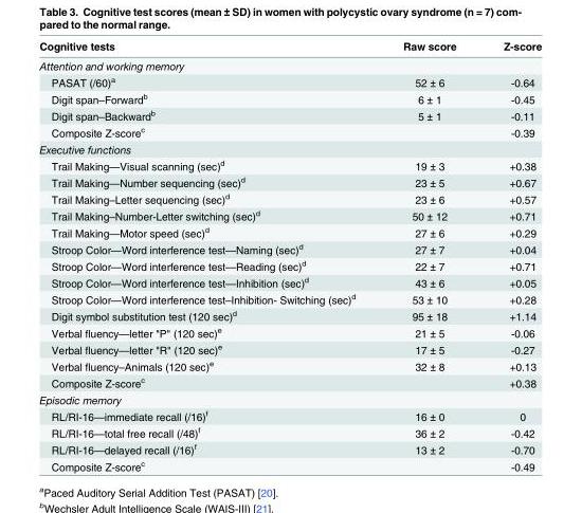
<table><thead><tr><td>Cognitive tests</td><td>Raw score</td><td>Z-score</td></tr></thead><tbody><tr><td colspan="3">Attention and working memory</td></tr><tr><td>PASAT (/60)<sup>a</sup></td><td>52 ± 6</td><td>-0.64</td></tr><tr><td>Digit span–Forward<sup>b</sup></td><td>6 ± 1</td><td>-0.45</td></tr><tr><td>Digit span–Backward<sup>b</sup></td><td>5 ± 1</td><td>-0.11</td></tr><tr><td>Composite Z-score<sup>c</sup></td><td></td><td>-0.39</td></tr><tr><td colspan="3">Executive functions</td></tr><tr><td>Trail Making—Visual scanning (sec)<sup>d</sup></td><td>19 ± 3</td><td>+0.38</td></tr><tr><td>Trail Making—Number sequencing (sec)<sup>d</sup></td><td>23 ± 5</td><td>+0.67</td></tr><tr><td>Trail Making–Letter sequencing (sec)<sup>d</sup></td><td>23 ± 6</td><td>+0.57</td></tr><tr><td>Trail Making–Number-Letter switching (sec)<sup>d</sup></td><td>50 ± 12</td><td>+0.71</td></tr><tr><td>Trail Making—Motor speed (sec)<sup>d</sup></td><td>27 ± 6</td><td>+0.29</td></tr><tr><td>Stroop Color—Word interference test—Naming (sec)<sup>d</sup></td><td>27 ± 7</td><td>+0.04</td></tr><tr><td>Stroop Color—Word interference test—Reading (sec)<sup>d</sup></td><td>22 ± 7</td><td>+0.71</td></tr><tr><td>Stroop Color—Word interference test—Inhibition (sec)<sup>d</sup></td><td>43 ± 6</td><td>+0.05</td></tr><tr><td>Stroop Color—Word interference test–Inhibition- Switching (sec)<sup>d</sup></td><td>53 ± 10</td><td>+0.28</td></tr><tr><td>Digit symbol substitution test (120 sec)<sup>d</sup></td><td>95 ± 18</td><td>+1.14</td></tr><tr><td>Verbal fluency—letter &quot;P&quot; (120 sec)<sup>e</sup></td><td>21 ± 5</td><td>-0.06</td></tr><tr><td>Verbal fluency—letter &quot;R&quot; (120 sec)<sup>e</sup></td><td>17 ± 5</td><td>-0.27</td></tr><tr><td>Verbal fluency–Animals (120 sec)<sup>e</sup></td><td>32 ± 8</td><td>+0.13</td></tr><tr><td>Composite Z-score<sup>c</sup></td><td></td><td>+0.38</td></tr><tr><td colspan="3">Episodic memory</td></tr><tr><td>RL/RI-16—immediate recall (/16)<sup>f</sup></td><td>16 ± 0</td><td>0</td></tr><tr><td>RL/RI-16—total free recall (/48)<sup>f</sup></td><td>36 ± 2</td><td>-0.42</td></tr><tr><td>RL/RI-16—delayed recall (/16)<sup>f</sup></td><td>13 ± 2</td><td>-0.70</td></tr><tr><td>Composite Z-score<sup>c</sup></td><td></td><td>-0.49</td></tr></tbody></table>